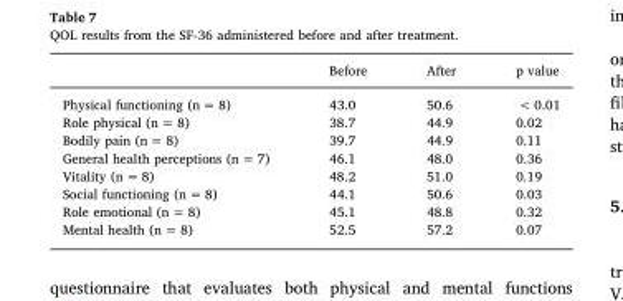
<table><thead><tr><td></td><td>Before</td><td>After</td><td>p value</td></tr></thead><tbody><tr><td>Physical functioning (n = 8)</td><td>43.0</td><td>50.6</td><td>&lt; 0.01</td></tr><tr><td>Role physical (n = 8)</td><td>38.7</td><td>44.9</td><td>0.02</td></tr><tr><td>Bodily pain (n = 8)</td><td>39.7</td><td>44.9</td><td>0.11</td></tr><tr><td>General health perceptions (n = 7)</td><td>46.1</td><td>48.0</td><td>0.36</td></tr><tr><td>Vitality (n = 8)</td><td>48.2</td><td>51.0</td><td>0.19</td></tr><tr><td>Social functioning (n = 8)</td><td>44.1</td><td>50.6</td><td>0.03</td></tr><tr><td>Role emotional (n = 8)</td><td>45.1</td><td>48.8</td><td>0.32</td></tr><tr><td>Mental health (n = 8)</td><td>52.5</td><td>57.2</td><td>0.07</td></tr></tbody></table>